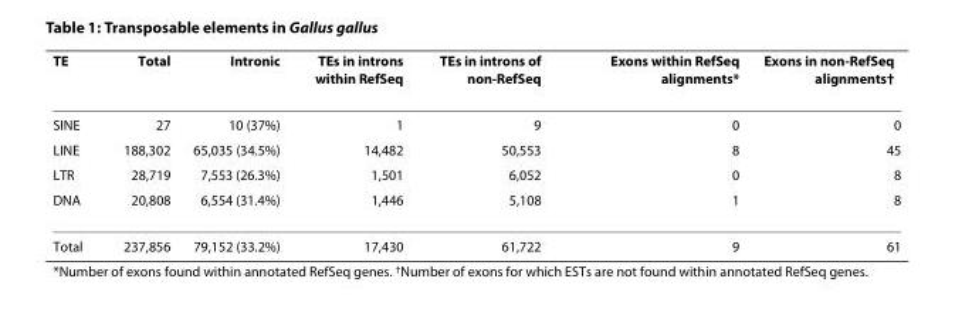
<table><thead><tr><td>TE</td><td>Total</td><td>Intronic</td><td>TEs in introns within RefSeq</td><td>TEs in introns of non-RefSeq</td><td>Exons within RefSeq alignments*</td><td>Exons in non-RefSeq alignments<sup>†</sup></td></tr></thead><tbody><tr><td>SINE</td><td>27</td><td>10 (37%)</td><td>1</td><td>9</td><td>0</td><td>0</td></tr><tr><td>LINE</td><td>188,302</td><td>65,035 (34.5%)</td><td>14,482</td><td>50,553</td><td>8</td><td>45</td></tr><tr><td>LTR</td><td>28,719</td><td>7,553 (26.3%)</td><td>1,501</td><td>6,052</td><td>0</td><td>8</td></tr><tr><td>DNA</td><td>20,808</td><td>6,554 (31.4%)</td><td>1,446</td><td>5,108</td><td>1</td><td>8</td></tr><tr><td>Total</td><td>237,856</td><td>79,152 (33.2%)</td><td>17,430</td><td>61,722</td><td>9</td><td>61</td></tr></tbody></table>